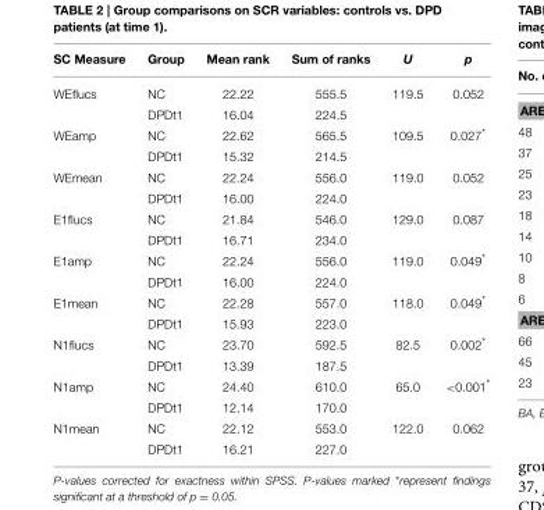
<table><thead><tr><td>SC Measure</td><td>Group</td><td>Mean rank</td><td>Sum of ranks</td><td>U</td><td>p</td></tr></thead><tbody><tr><td rowspan="2">WEflucs</td><td>NC</td><td>22.22</td><td>555.5</td><td>119.5</td><td>0.052</td></tr><tr><td>DPDt1</td><td>16.04</td><td>224.5</td><td></td><td></td></tr><tr><td rowspan="2">WEamp</td><td>NC</td><td>22.62</td><td>565.5</td><td>109.5</td><td>0.027*</td></tr><tr><td>DPDt1</td><td>15.32</td><td>214.5</td><td></td><td></td></tr><tr><td rowspan="2">WEmean</td><td>NC</td><td>22.24</td><td>556.0</td><td>119.0</td><td>0.052</td></tr><tr><td>DPDt1</td><td>16.00</td><td>224.0</td><td></td><td></td></tr><tr><td rowspan="2">E1flucs</td><td>NC</td><td>21.84</td><td>546.0</td><td>129.0</td><td>0.087</td></tr><tr><td>DPDt1</td><td>16.71</td><td>234.0</td><td></td><td></td></tr><tr><td rowspan="2">E1amp</td><td>NC</td><td>22.24</td><td>556.0</td><td>119.0</td><td>0.049*</td></tr><tr><td>DPDt1</td><td>16.00</td><td>224.0</td><td></td><td></td></tr><tr><td rowspan="2">E1mean</td><td>NC</td><td>22.28</td><td>557.0</td><td>118.0</td><td>0.049*</td></tr><tr><td>DPDt1</td><td>15.93</td><td>223.0</td><td></td><td></td></tr><tr><td rowspan="2">N1flucs</td><td>NC</td><td>23.70</td><td>592.5</td><td>82.5</td><td>0.002*</td></tr><tr><td>DPDt1</td><td>13.39</td><td>187.5</td><td></td><td></td></tr><tr><td rowspan="2">N1amp</td><td>NC</td><td>24.40</td><td>610.0</td><td>65.0</td><td>&lt;0.001*</td></tr><tr><td>DPDt1</td><td>12.14</td><td>170.0</td><td></td><td></td></tr><tr><td rowspan="2">N1mean</td><td>NC</td><td>22.12</td><td>553.0</td><td>122.0</td><td>0.062</td></tr><tr><td>DPDt1</td><td>16.21</td><td>227.0</td><td></td><td></td></tr></tbody></table>